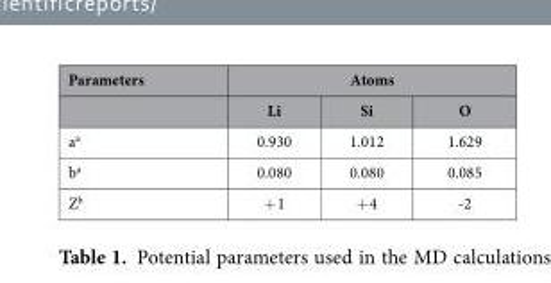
<table><thead><tr><td rowspan="2">Parameters</td><td colspan="3">Atoms</td></tr><tr><td>Li</td><td>Si</td><td>O</td></tr></thead><tbody><tr><td>a<sup>a</sup></td><td>0.930</td><td>1.012</td><td>1.629</td></tr><tr><td>b<sup>a</sup></td><td>0.080</td><td>0.080</td><td>0.085</td></tr><tr><td>Z<sup>b</sup></td><td>+ 1</td><td>+ 4</td><td>-2</td></tr></tbody></table>